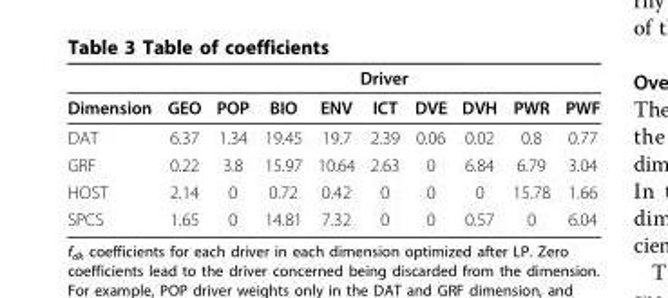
<table><thead><tr><td rowspan="2">Dimension</td><td colspan="9">Driver</td></tr><tr><td>GEO</td><td>POP</td><td>BIO</td><td>ENV</td><td>ICT</td><td>DVE</td><td>DVH</td><td>PWR</td><td>PWF</td></tr></thead><tbody><tr><td>DAT</td><td>6.37</td><td>1.34</td><td>19.45</td><td>19.7</td><td>2.39</td><td>0.06</td><td>0.02</td><td>0.8</td><td>0.77</td></tr><tr><td>GRF</td><td>0.22</td><td>3.8</td><td>15.97</td><td>10.64</td><td>2.63</td><td>0</td><td>6.84</td><td>6.79</td><td>3.04</td></tr><tr><td>HOST</td><td>2.14</td><td>0</td><td>0.72</td><td>0.42</td><td>0</td><td>0</td><td>0</td><td>15.78</td><td>1.66</td></tr><tr><td>SPCS</td><td>1.65</td><td>0</td><td>14.81</td><td>7.32</td><td>0</td><td>0</td><td>0.57</td><td>0</td><td>6.04</td></tr></tbody></table>